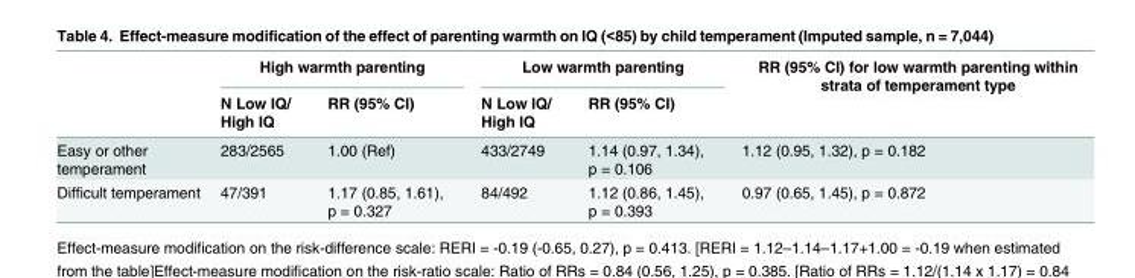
<table><thead><tr><td rowspan="2"></td><td colspan="2">High warmth parenting</td><td colspan="2">Low warmth parenting</td><td rowspan="2">RR (95% CI) for low warmth parenting within strata of temperament type</td></tr><tr><td>N Low IQ/ High IQ</td><td>RR (95% CI)</td><td>N Low IQ/ High IQ</td><td>RR (95% CI)</td></tr></thead><tbody><tr><td>Easy or other temperament</td><td>283/2565</td><td>1.00 (Ref)</td><td>433/2749</td><td>1.14 (0.97, 1.34), p = 0.106</td><td>1.12 (0.95, 1.32), p = 0.182</td></tr><tr><td>Difficult temperament</td><td>47/391</td><td>1.17 (0.85, 1.61), p = 0.327</td><td>84/492</td><td>1.12 (0.86, 1.45), p = 0.393</td><td>0.97 (0.65, 1.45), p = 0.872</td></tr></tbody></table>